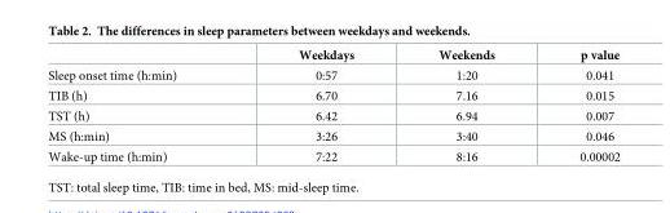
<table><thead><tr><td></td><td>Weekdays</td><td>Weekends</td><td>p value</td></tr></thead><tbody><tr><td>Sleep onset time (h:min)</td><td>0:57</td><td>1:20</td><td>0.041</td></tr><tr><td>TIB (h)</td><td>6.70</td><td>7.16</td><td>0.015</td></tr><tr><td>TST (h)</td><td>6.42</td><td>6.94</td><td>0.007</td></tr><tr><td>MS (h:min)</td><td>3:26</td><td>3:40</td><td>0.046</td></tr><tr><td>Wake-up time (h:min)</td><td>7:22</td><td>8:16</td><td>0.00002</td></tr></tbody></table>